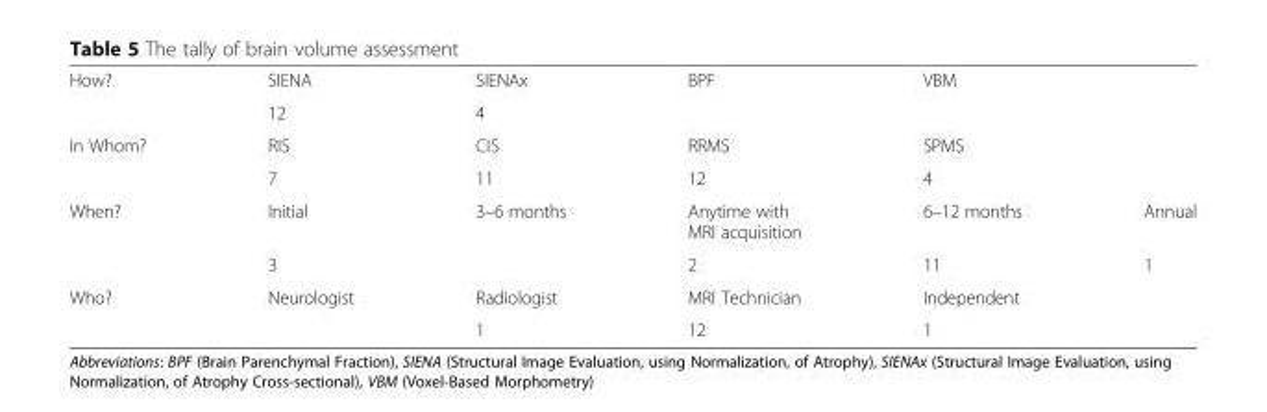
<table><tbody><tr><td rowspan="2">How?</td><td>SIENA</td><td>SIENAx</td><td>BPF</td><td>VBM</td><td></td></tr><tr><td>12</td><td>4</td><td></td><td></td><td></td></tr><tr><td rowspan="2">In Whom?</td><td>RIS</td><td>CIS</td><td>RRMS</td><td>SPMS</td><td></td></tr><tr><td>7</td><td>11</td><td>12</td><td>4</td><td></td></tr><tr><td rowspan="2">When?</td><td>Initial</td><td>3–6 months</td><td>Anytime with MRI acquisition</td><td>6–12 months</td><td>Annual</td></tr><tr><td>3</td><td></td><td>2</td><td>11</td><td>1</td></tr><tr><td rowspan="2">Who?</td><td>Neurologist</td><td>Radiologist</td><td>MRI Technician</td><td>Independent</td><td></td></tr><tr><td></td><td>1</td><td>12</td><td>1</td><td></td></tr></tbody></table>